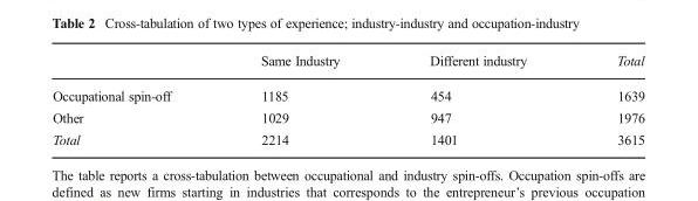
<table><thead><tr><td></td><td>Same Industry</td><td>Different industry</td><td>Total</td></tr></thead><tbody><tr><td>Occupational spin-off</td><td>1185</td><td>454</td><td>1639</td></tr><tr><td>Other</td><td>1029</td><td>947</td><td>1976</td></tr><tr><td>Total</td><td>2214</td><td>1401</td><td>3615</td></tr></tbody></table>